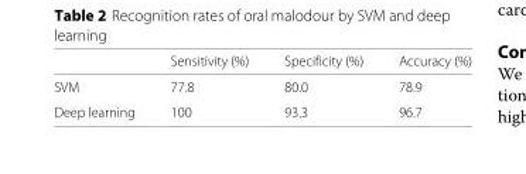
<table><thead><tr><td></td><td>Sensitivity (%)</td><td>Specificity (%)</td><td>Accuracy (%)</td></tr></thead><tbody><tr><td>SVM</td><td>77.8</td><td>80.0</td><td>78.9</td></tr><tr><td>Deep learning</td><td>100</td><td>93.3</td><td>96.7</td></tr></tbody></table>